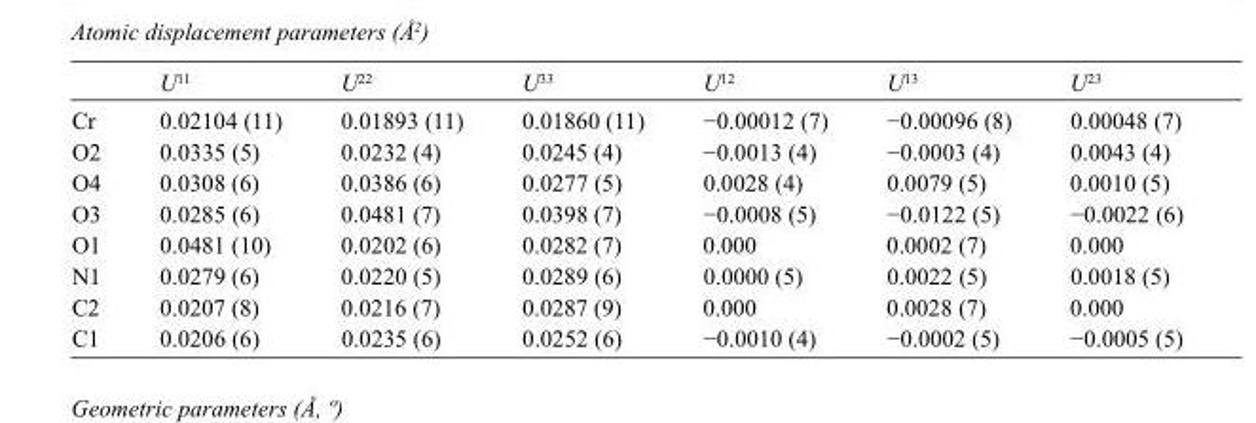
<table><thead><tr><td></td><td>U<sup>11</sup></td><td>U<sup>22</sup></td><td>U<sup>33</sup></td><td>U<sup>12</sup></td><td>U<sup>13</sup></td><td>U<sup>23</sup></td></tr></thead><tbody><tr><td>Cr</td><td>0.02104 (11)</td><td>0.01893 (11)</td><td>0.01860 (11)</td><td>−0.00012 (7)</td><td>−0.00096 (8)</td><td>0.00048 (7)</td></tr><tr><td>O2</td><td>0.0335 (5)</td><td>0.0232 (4)</td><td>0.0245 (4)</td><td>−0.0013 (4)</td><td>−0.0003 (4)</td><td>0.0043 (4)</td></tr><tr><td>O4</td><td>0.0308 (6)</td><td>0.0386 (6)</td><td>0.0277 (5)</td><td>0.0028 (4)</td><td>0.0079 (5)</td><td>0.0010 (5)</td></tr><tr><td>O3</td><td>0.0285 (6)</td><td>0.0481 (7)</td><td>0.0398 (7)</td><td>−0.0008 (5)</td><td>−0.0122 (5)</td><td>−0.0022 (6)</td></tr><tr><td>O1</td><td>0.0481 (10)</td><td>0.0202 (6)</td><td>0.0282 (7)</td><td>0.000</td><td>0.0002 (7)</td><td>0.000</td></tr><tr><td>N1</td><td>0.0279 (6)</td><td>0.0220 (5)</td><td>0.0289 (6)</td><td>0.0000 (5)</td><td>0.0022 (5)</td><td>0.0018 (5)</td></tr><tr><td>C2</td><td>0.0207 (8)</td><td>0.0216 (7)</td><td>0.0287 (9)</td><td>0.000</td><td>0.0028 (7)</td><td>0.000</td></tr><tr><td>C1</td><td>0.0206 (6)</td><td>0.0235 (6)</td><td>0.0252 (6)</td><td>−0.0010 (4)</td><td>−0.0002 (5)</td><td>−0.0005 (5)</td></tr></tbody></table>